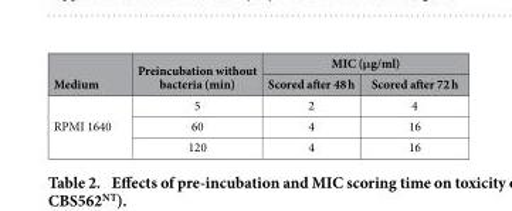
<table><thead><tr><td rowspan="2">Medium</td><td rowspan="2">Preincubation without bacteria (min)</td><td colspan="2">MIC (μg/ml)</td></tr><tr><td>Scored after 48 h</td><td>Scored after 72 h</td></tr></thead><tbody><tr><td rowspan="3">RPMI 1640</td><td>5</td><td>2</td><td>4</td></tr><tr><td>60</td><td>4</td><td>16</td></tr><tr><td>120</td><td>4</td><td>16</td></tr></tbody></table>